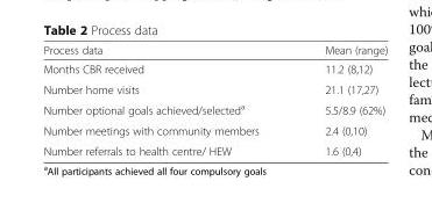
<table><thead><tr><td>Process data</td><td>Mean (range)</td></tr></thead><tbody><tr><td>Months CBR received</td><td>11.2 (8,12)</td></tr><tr><td>Number home visits</td><td>21.1 (17,27)</td></tr><tr><td>Number optional goals achieved/selected<sup>a</sup></td><td>5.5/8.9 (62%)</td></tr><tr><td>Number meetings with community members</td><td>2.4 (0,10)</td></tr><tr><td>Number referrals to health centre/ HEW</td><td>1.6 (0,4)</td></tr></tbody></table>